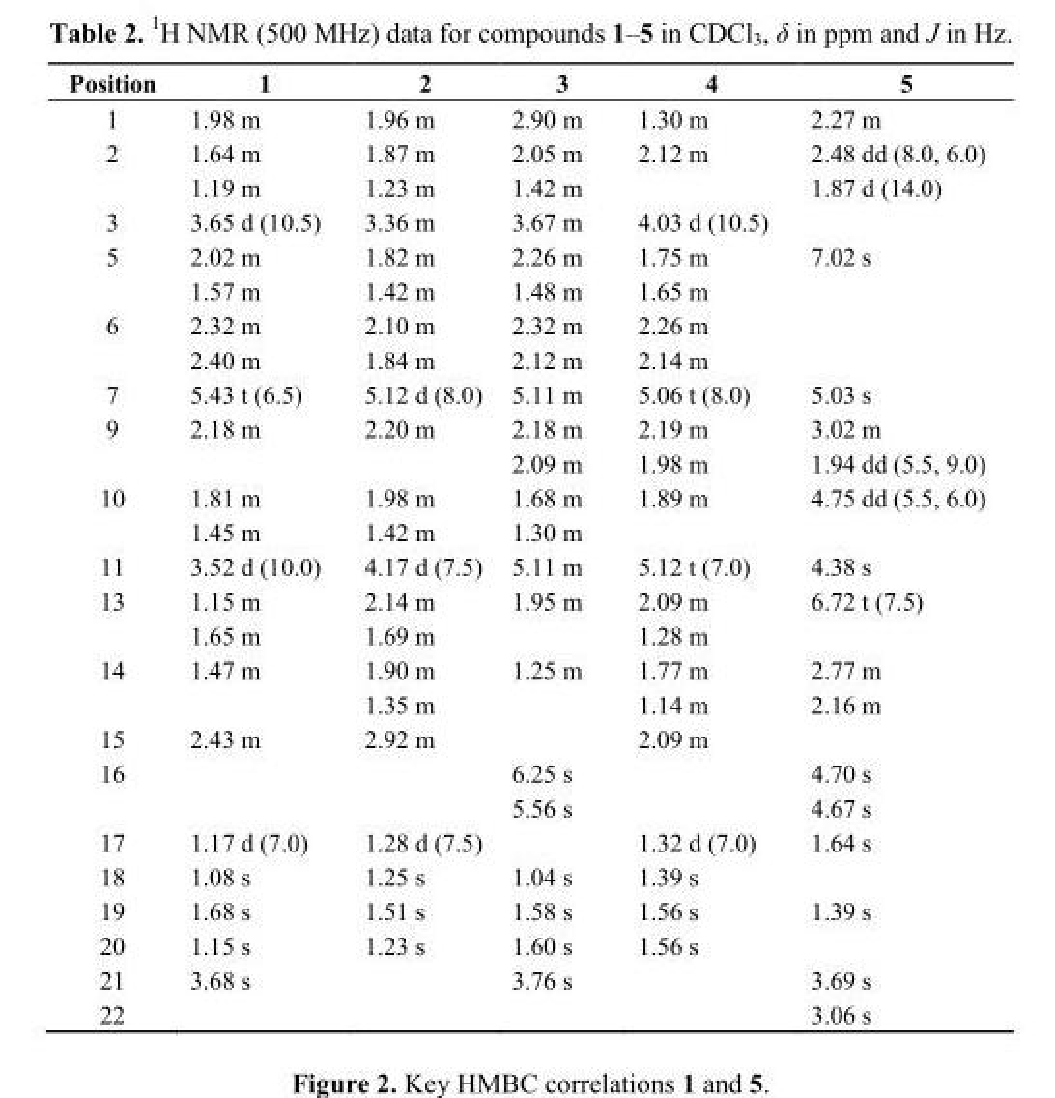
<table><thead><tr><td>Position</td><td>1</td><td>2</td><td>3</td><td>4</td><td>5</td></tr></thead><tbody><tr><td>1</td><td>1.98 m</td><td>1.96 m</td><td>2.90 m</td><td>1.30 m</td><td>2.27 m</td></tr><tr><td rowspan="2">2</td><td>1.64 m</td><td>1.87 m</td><td>2.05 m</td><td>2.12 m</td><td>2.48 dd (8.0, 6.0)</td></tr><tr><td>1.19 m</td><td>1.23 m</td><td>1.42 m</td><td></td><td>1.87 d (14.0)</td></tr><tr><td>3</td><td>3.65 d (10.5)</td><td>3.36 m</td><td>3.67 m</td><td>4.03 d (10.5)</td><td></td></tr><tr><td rowspan="2">5</td><td>2.02 m</td><td>1.82 m</td><td>2.26 m</td><td>1.75 m</td><td>7.02 s</td></tr><tr><td>1.57 m</td><td>1.42 m</td><td>1.48 m</td><td>1.65 m</td><td></td></tr><tr><td rowspan="2">6</td><td>2.32 m</td><td>2.10 m</td><td>2.32 m</td><td>2.26 m</td><td></td></tr><tr><td>2.40 m</td><td>1.84 m</td><td>2.12 m</td><td>2.14 m</td><td></td></tr><tr><td>7</td><td>5.43 t (6.5)</td><td>5.12 d (8.0)</td><td>5.11 m</td><td>5.06 t (8.0)</td><td>5.03 s</td></tr><tr><td rowspan="2">9</td><td>2.18 m</td><td>2.20 m</td><td>2.18 m</td><td>2.19 m</td><td>3.02 m</td></tr><tr><td></td><td></td><td>2.09 m</td><td>1.98 m</td><td>1.94 dd (5.5, 9.0)</td></tr><tr><td rowspan="2">10</td><td>1.81 m</td><td>1.98 m</td><td>1.68 m</td><td>1.89 m</td><td>4.75 dd (5.5, 6.0)</td></tr><tr><td>1.45 m</td><td>1.42 m</td><td>1.30 m</td><td></td><td></td></tr><tr><td>11</td><td>3.52 d (10.0)</td><td>4.17 d (7.5)</td><td>5.11 m</td><td>5.12 t (7.0)</td><td>4.38 s</td></tr><tr><td rowspan="2">13</td><td>1.15 m</td><td>2.14 m</td><td>1.95 m</td><td>2.09 m</td><td>6.72 t (7.5)</td></tr><tr><td>1.65 m</td><td>1.69 m</td><td></td><td>1.28 m</td><td></td></tr><tr><td rowspan="2">14</td><td>1.47 m</td><td>1.90 m</td><td>1.25 m</td><td>1.77 m</td><td>2.77 m</td></tr><tr><td></td><td>1.35 m</td><td></td><td>1.14 m</td><td>2.16 m</td></tr><tr><td>15</td><td>2.43 m</td><td>2.92 m</td><td></td><td>2.09 m</td><td></td></tr><tr><td rowspan="2">16</td><td></td><td></td><td>6.25 s</td><td></td><td>4.70 s</td></tr><tr><td></td><td></td><td>5.56 s</td><td></td><td>4.67 s</td></tr><tr><td>17</td><td>1.17 d (7.0)</td><td>1.28 d (7.5)</td><td></td><td>1.32 d (7.0)</td><td>1.64 s</td></tr><tr><td>18</td><td>1.08 s</td><td>1.25 s</td><td>1.04 s</td><td>1.39 s</td><td></td></tr><tr><td>19</td><td>1.68 s</td><td>1.51 s</td><td>1.58 s</td><td>1.56 s</td><td>1.39 s</td></tr><tr><td>20</td><td>1.15 s</td><td>1.23 s</td><td>1.60 s</td><td>1.56 s</td><td></td></tr><tr><td>21</td><td>3.68 s</td><td></td><td>3.76 s</td><td></td><td>3.69 s</td></tr><tr><td>22</td><td></td><td></td><td></td><td></td><td>3.06 s</td></tr></tbody></table>